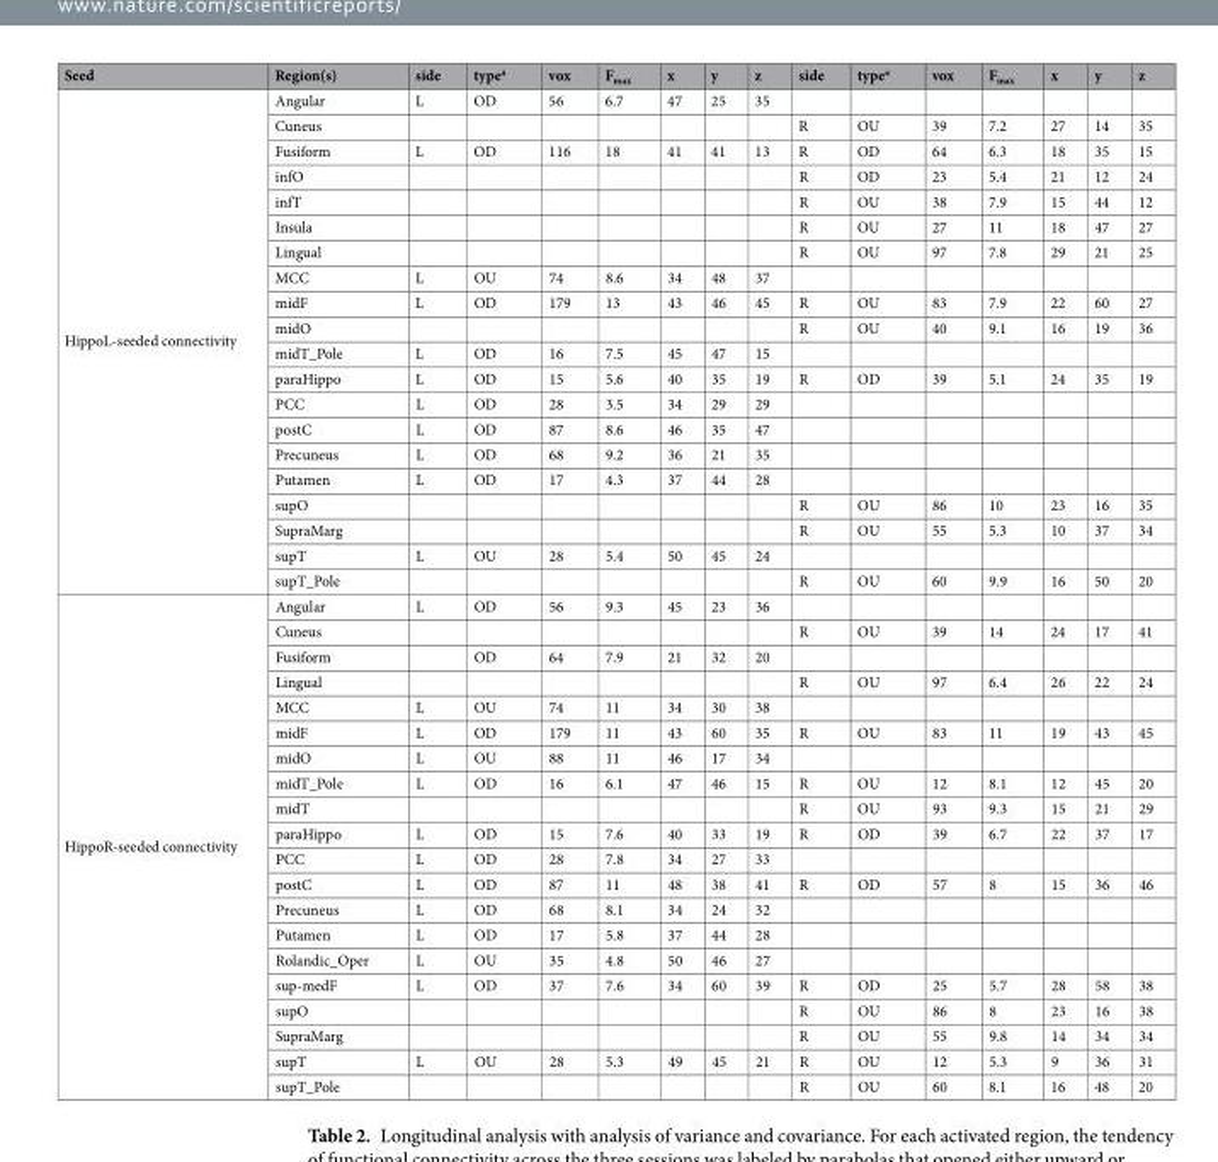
<table><thead><tr><td>Seed</td><td>Region(s)</td><td>side</td><td>type<sup>a</sup></td><td>vox</td><td>F<sub>max</sub></td><td>x</td><td>y</td><td>z</td><td>side</td><td>type<sup>a</sup></td><td>vox</td><td>F<sub>max</sub></td><td>x</td><td>y</td><td>z</td></tr></thead><tbody><tr><td rowspan="20">HippoL-seeded connectivity</td><td>Angular</td><td>L</td><td>OD</td><td>56</td><td>6.7</td><td>47</td><td>25</td><td>35</td><td></td><td></td><td></td><td></td><td></td><td></td><td></td></tr><tr><td>Cuneus</td><td></td><td></td><td></td><td></td><td></td><td></td><td></td><td>R</td><td>OU</td><td>39</td><td>7.2</td><td>27</td><td>14</td><td>35</td></tr><tr><td>Fusiform</td><td>L</td><td>OD</td><td>116</td><td>18</td><td>41</td><td>41</td><td>13</td><td>R</td><td>OD</td><td>64</td><td>6.3</td><td>18</td><td>35</td><td>15</td></tr><tr><td>infO</td><td></td><td></td><td></td><td></td><td></td><td></td><td></td><td>R</td><td>OD</td><td>23</td><td>5.4</td><td>21</td><td>12</td><td>24</td></tr><tr><td>infT</td><td></td><td></td><td></td><td></td><td></td><td></td><td></td><td>R</td><td>OU</td><td>38</td><td>7.9</td><td>15</td><td>44</td><td>12</td></tr><tr><td>Insula</td><td></td><td></td><td></td><td></td><td></td><td></td><td></td><td>R</td><td>OU</td><td>27</td><td>11</td><td>18</td><td>47</td><td>27</td></tr><tr><td>Lingual</td><td></td><td></td><td></td><td></td><td></td><td></td><td></td><td>R</td><td>OU</td><td>97</td><td>7.8</td><td>29</td><td>21</td><td>25</td></tr><tr><td>MCC</td><td>L</td><td>OU</td><td>74</td><td>8.6</td><td>34</td><td>48</td><td>37</td><td></td><td></td><td></td><td></td><td></td><td></td><td></td></tr><tr><td>midF</td><td>L</td><td>OD</td><td>179</td><td>13</td><td>43</td><td>46</td><td>45</td><td>R</td><td>OU</td><td>83</td><td>7.9</td><td>22</td><td>60</td><td>27</td></tr><tr><td>midO</td><td></td><td></td><td></td><td></td><td></td><td></td><td></td><td>R</td><td>OU</td><td>40</td><td>9.1</td><td>16</td><td>19</td><td>36</td></tr><tr><td>midT_Pole</td><td>L</td><td>OD</td><td>16</td><td>7.5</td><td>45</td><td>47</td><td>15</td><td></td><td></td><td></td><td></td><td></td><td></td><td></td></tr><tr><td>paraHippo</td><td>L</td><td>OD</td><td>15</td><td>5.6</td><td>40</td><td>35</td><td>19</td><td>R</td><td>OD</td><td>39</td><td>5.1</td><td>24</td><td>35</td><td>19</td></tr><tr><td>PCC</td><td>L</td><td>OD</td><td>28</td><td>3.5</td><td>34</td><td>29</td><td>29</td><td></td><td></td><td></td><td></td><td></td><td></td><td></td></tr><tr><td>postC</td><td>L</td><td>OD</td><td>87</td><td>8.6</td><td>46</td><td>35</td><td>47</td><td></td><td></td><td></td><td></td><td></td><td></td><td></td></tr><tr><td>Precuneus</td><td>L</td><td>OD</td><td>68</td><td>9.2</td><td>36</td><td>21</td><td>35</td><td></td><td></td><td></td><td></td><td></td><td></td><td></td></tr><tr><td>Putamen</td><td>L</td><td>OD</td><td>17</td><td>4.3</td><td>37</td><td>44</td><td>28</td><td></td><td></td><td></td><td></td><td></td><td></td><td></td></tr><tr><td>supO</td><td></td><td></td><td></td><td></td><td></td><td></td><td></td><td>R</td><td>OU</td><td>86</td><td>10</td><td>23</td><td>16</td><td>35</td></tr><tr><td>SupraMarg</td><td></td><td></td><td></td><td></td><td></td><td></td><td></td><td>R</td><td>OU</td><td>55</td><td>5.3</td><td>10</td><td>37</td><td>34</td></tr><tr><td>supT</td><td>L</td><td>OU</td><td>28</td><td>5.4</td><td>50</td><td>45</td><td>24</td><td></td><td></td><td></td><td></td><td></td><td></td><td></td></tr><tr><td>supT_Pole</td><td></td><td></td><td></td><td></td><td></td><td></td><td></td><td>R</td><td>OU</td><td>60</td><td>9.9</td><td>16</td><td>50</td><td>20</td></tr><tr><td rowspan="20">HippoR-seeded connectivity</td><td>Angular</td><td>L</td><td>OD</td><td>56</td><td>9.3</td><td>45</td><td>23</td><td>36</td><td></td><td></td><td></td><td></td><td></td><td></td><td></td></tr><tr><td>Cuneus</td><td></td><td></td><td></td><td></td><td></td><td></td><td></td><td>R</td><td>OU</td><td>39</td><td>14</td><td>24</td><td>17</td><td>41</td></tr><tr><td>Fusiform</td><td></td><td>OD</td><td>64</td><td>7.9</td><td>21</td><td>32</td><td>20</td><td></td><td></td><td></td><td></td><td></td><td></td><td></td></tr><tr><td>Lingual</td><td></td><td></td><td></td><td></td><td></td><td></td><td></td><td>R</td><td>OU</td><td>97</td><td>6.4</td><td>26</td><td>22</td><td>24</td></tr><tr><td>MCC</td><td>L</td><td>OU</td><td>74</td><td>11</td><td>34</td><td>30</td><td>38</td><td></td><td></td><td></td><td></td><td></td><td></td><td></td></tr><tr><td>midF</td><td>L</td><td>OD</td><td>179</td><td>11</td><td>43</td><td>60</td><td>35</td><td>R</td><td>OU</td><td>83</td><td>11</td><td>19</td><td>43</td><td>45</td></tr><tr><td>midO</td><td>L</td><td>OU</td><td>88</td><td>11</td><td>46</td><td>17</td><td>34</td><td></td><td></td><td></td><td></td><td></td><td></td><td></td></tr><tr><td>midT_Pole</td><td>L</td><td>OD</td><td>16</td><td>6.1</td><td>47</td><td>46</td><td>15</td><td>R</td><td>OU</td><td>12</td><td>8.1</td><td>12</td><td>45</td><td>20</td></tr><tr><td>midT</td><td></td><td></td><td></td><td></td><td></td><td></td><td></td><td>R</td><td>OU</td><td>93</td><td>9.3</td><td>15</td><td>21</td><td>29</td></tr><tr><td>paraHippo</td><td>L</td><td>OD</td><td>15</td><td>7.6</td><td>40</td><td>33</td><td>19</td><td>R</td><td>OD</td><td>39</td><td>6.7</td><td>22</td><td>37</td><td>17</td></tr><tr><td>PCC</td><td>L</td><td>OD</td><td>28</td><td>7.8</td><td>34</td><td>27</td><td>33</td><td></td><td></td><td></td><td></td><td></td><td></td><td></td></tr><tr><td>postC</td><td>L</td><td>OD</td><td>87</td><td>11</td><td>48</td><td>38</td><td>41</td><td>R</td><td>OD</td><td>57</td><td>8</td><td>15</td><td>36</td><td>46</td></tr><tr><td>Precuneus</td><td>L</td><td>OD</td><td>68</td><td>8.1</td><td>34</td><td>24</td><td>32</td><td></td><td></td><td></td><td></td><td></td><td></td><td></td></tr><tr><td>Putamen</td><td>L</td><td>OD</td><td>17</td><td>5.8</td><td>37</td><td>44</td><td>28</td><td></td><td></td><td></td><td></td><td></td><td></td><td></td></tr><tr><td>Rolandic_Oper</td><td>L</td><td>OU</td><td>35</td><td>4.8</td><td>50</td><td>46</td><td>27</td><td></td><td></td><td></td><td></td><td></td><td></td><td></td></tr><tr><td>sup-medF</td><td>L</td><td>OD</td><td>37</td><td>7.6</td><td>34</td><td>60</td><td>39</td><td>R</td><td>OD</td><td>25</td><td>5.7</td><td>28</td><td>58</td><td>38</td></tr><tr><td>supO</td><td></td><td></td><td></td><td></td><td></td><td></td><td></td><td>R</td><td>OU</td><td>86</td><td>8</td><td>23</td><td>16</td><td>38</td></tr><tr><td>SupraMarg</td><td></td><td></td><td></td><td></td><td></td><td></td><td></td><td>R</td><td>OU</td><td>55</td><td>9.8</td><td>14</td><td>34</td><td>34</td></tr><tr><td>supT</td><td>L</td><td>OU</td><td>28</td><td>5.3</td><td>49</td><td>45</td><td>21</td><td>R</td><td>OU</td><td>12</td><td>5.3</td><td>9</td><td>36</td><td>31</td></tr><tr><td>supT_Pole</td><td></td><td></td><td></td><td></td><td></td><td></td><td></td><td>R</td><td>OU</td><td>60</td><td>8.1</td><td>16</td><td>48</td><td>20</td></tr></tbody></table>